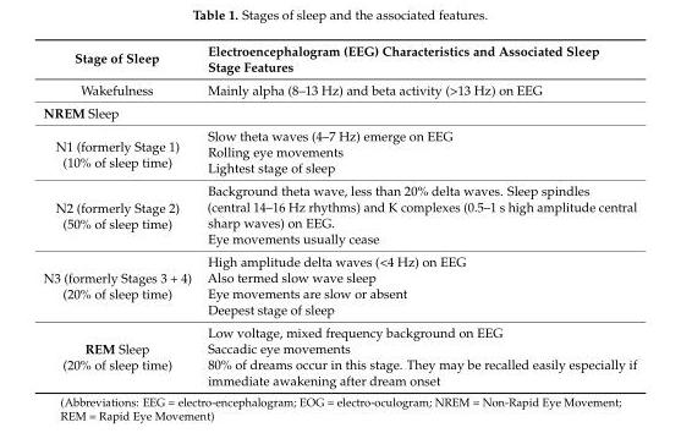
<table><thead><tr><td>Stage of Sleep</td><td>Electroencephalogram (EEG) Characteristics and Associated Sleep Stage Features</td></tr></thead><tbody><tr><td>Wakefulness</td><td>Mainly alpha (8–13 Hz) and beta activity (&gt;13 Hz) on EEG</td></tr><tr><td colspan="2">NREM Sleep</td></tr><tr><td rowspan="3">N1 (formerly Stage 1) (10% of sleep time)</td><td>Slow theta waves (4–7 Hz) emerge on EEG</td></tr><tr><td>Rolling eye movements</td></tr><tr><td>Lightest stage of sleep</td></tr><tr><td rowspan="2">N2 (formerly Stage 2) (50% of sleep time)</td><td>Background theta wave, less than 20% delta waves. Sleep spindles (central 14–16 Hz rhythms) and K complexes (0.5–1 s high amplitude central sharp waves) on EEG.</td></tr><tr><td>Eye movements usually cease</td></tr><tr><td rowspan="3">N3 (formerly Stages 3 + 4) (20% of sleep time)</td><td>High amplitude delta waves (&lt;4 Hz) on EEG Also termed slow wave sleep</td></tr><tr><td>Eye movements are slow or absent</td></tr><tr><td>Deepest stage of sleep</td></tr><tr><td rowspan="3">REM Sleep (20% of sleep time)</td><td>Low voltage, mixed frequency background on EEG</td></tr><tr><td>Saccadic eye movements</td></tr><tr><td>80% of dreams occur in this stage. They may be recalled easily especially if immediate awakening after dream onset</td></tr></tbody></table>